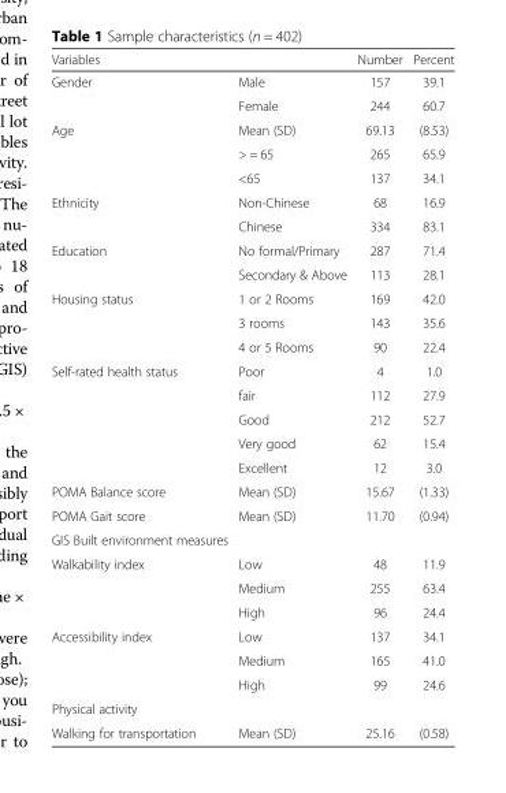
<table><thead><tr><td>Variables</td><td></td><td>Number</td><td>Percent</td></tr></thead><tbody><tr><td rowspan="2">Gender</td><td>Male</td><td>157</td><td>39.1</td></tr><tr><td>Female</td><td>244</td><td>60.7</td></tr><tr><td rowspan="3">Age</td><td>Mean (SD)</td><td>69.13</td><td>(8.53)</td></tr><tr><td>&gt; = 65</td><td>265</td><td>65.9</td></tr><tr><td>&lt;65</td><td>137</td><td>34.1</td></tr><tr><td rowspan="2">Ethnicity</td><td>Non-Chinese</td><td>68</td><td>16.9</td></tr><tr><td>Chinese</td><td>334</td><td>83.1</td></tr><tr><td rowspan="2">Education</td><td>No formal/Primary</td><td>287</td><td>71.4</td></tr><tr><td>Secondary &amp; Above</td><td>113</td><td>28.1</td></tr><tr><td rowspan="3">Housing status</td><td>1 or 2 Rooms</td><td>169</td><td>42.0</td></tr><tr><td>3 rooms</td><td>143</td><td>35.6</td></tr><tr><td>4 or 5 Rooms</td><td>90</td><td>22.4</td></tr><tr><td rowspan="5">Self-rated health status</td><td>Poor</td><td>4</td><td>1.0</td></tr><tr><td>fair</td><td>112</td><td>27.9</td></tr><tr><td>Good</td><td>212</td><td>52.7</td></tr><tr><td>Very good</td><td>62</td><td>15.4</td></tr><tr><td>Excellent</td><td>12</td><td>3.0</td></tr><tr><td>POMA Balance score</td><td>Mean (SD)</td><td>15.67</td><td>(1.33)</td></tr><tr><td>POMA Gait score</td><td>Mean (SD)</td><td>11.70</td><td>(0.94)</td></tr><tr><td colspan="4">GIS Built environment measures</td></tr><tr><td rowspan="3">Walkability index</td><td>Low</td><td>48</td><td>11.9</td></tr><tr><td>Medium</td><td>255</td><td>63.4</td></tr><tr><td>High</td><td>96</td><td>24.4</td></tr><tr><td rowspan="3">Accessibility index</td><td>Low</td><td>137</td><td>34.1</td></tr><tr><td>Medium</td><td>165</td><td>41.0</td></tr><tr><td>High</td><td>99</td><td>24.6</td></tr><tr><td colspan="4">Physical activity</td></tr><tr><td>Walking for transportation</td><td>Mean (SD)</td><td>25.16</td><td>(0.58)</td></tr></tbody></table>